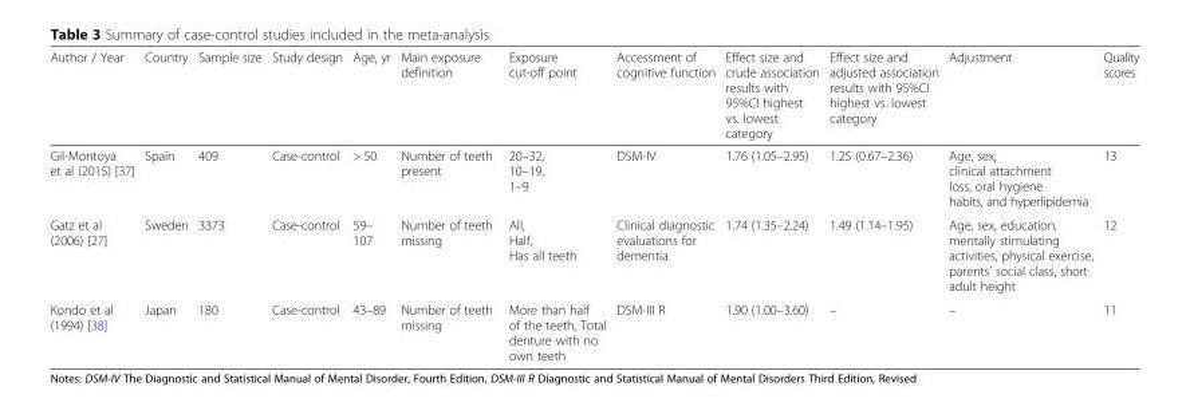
<table><thead><tr><td>Author / Year</td><td>Country</td><td>Sample size</td><td>Study design</td><td>Age, yr</td><td>Main exposure definition</td><td>Exposure cut-off point</td><td>Accessment of cognitive function</td><td>Effect size and crude association results with 95%CI highest vs. lowest category</td><td>Effect size and adjusted association results with 95%CI highest vs. lowest category</td><td>Adjustment</td><td>Quality scores</td></tr></thead><tbody><tr><td>Gil-Montoya et al (2015) [37]</td><td>Spain</td><td>409</td><td>Case-control</td><td>&gt; 50</td><td>Number of teeth present</td><td>20–32, 10–19, 1–9</td><td>DSM-IV</td><td>1.76 (1.05–2.95)</td><td>1.25 (0.67–2.36)</td><td>Age, sex, clinical attachment loss, oral hygiene habits, and hyperlipidemia</td><td>13</td></tr><tr><td>Gatz et al (2006) [27]</td><td>Sweden</td><td>3373</td><td>Case-control</td><td>59– 107</td><td>Number of teeth missing</td><td>All, Half, Has all teeth</td><td>Clinical diagnostic evaluations for dementia</td><td>1.74 (1.35–2.24)</td><td>1.49 (1.14–1.95)</td><td>Age, sex, education, mentally stimulating activities, physical exercise, parents’ social class, short adult height</td><td>12</td></tr><tr><td>Kondo et al (1994) [38]</td><td>Japan</td><td>180</td><td>Case-control</td><td>43–89</td><td>Number of teeth missing</td><td>More than half of the teeth, Total denture with no own teeth</td><td>DSM-III R</td><td>1.90 (1.00–3.60)</td><td>–</td><td>–</td><td>11</td></tr></tbody></table>